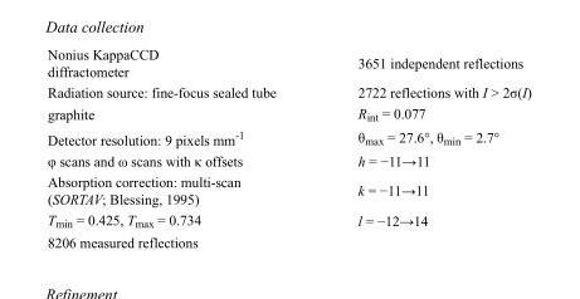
<table><tbody><tr><td>Nonius KappaCCD diffractometer</td><td>3651 independent reflections</td></tr><tr><td>Radiation source: fine-focus sealed tube</td><td>2722 reflections with I &gt; 2σ(I)</td></tr><tr><td>graphite</td><td>R<sub>int</sub> = 0.077</td></tr><tr><td>Detector resolution: 9 pixels mm<sup>-1</sup></td><td>θ<sub>max</sub> = 27.6°, θ<sub>min</sub> = 2.7°</td></tr><tr><td>φ scans and ω scans with κ offsets</td><td>h = −11→11</td></tr><tr><td>Absorption correction: multi-scan (SORTAV; Blessing, 1995)</td><td>k = −11→11</td></tr><tr><td>T<sub>min</sub> = 0.425, T<sub>max</sub> = 0.734</td><td>l = −12→14</td></tr><tr><td>8206 measured reflections</td><td></td></tr></tbody></table>